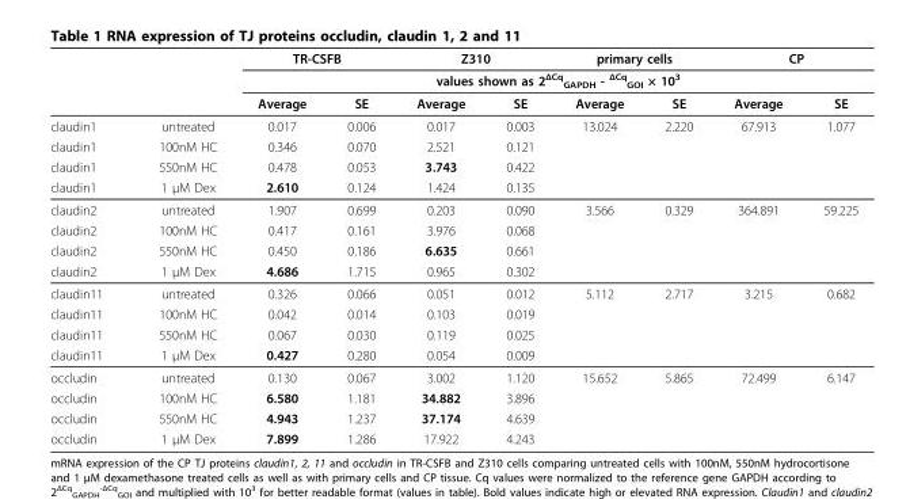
<table><thead><tr><td rowspan="3"></td><td rowspan="3"></td><td colspan="2">TR-CSFB</td><td colspan="2">Z310</td><td colspan="2">primary cells</td><td colspan="2">CP</td></tr><tr><td colspan="8">values shown as 2<sup>ΔCq</sup> <sub>GAPDH</sub> - <sup>ΔCq</sup> <sub>GOI</sub> × 10<sup>3</sup></td></tr><tr><td>Average</td><td>SE</td><td>Average</td><td>SE</td><td>Average</td><td>SE</td><td>Average</td><td>SE</td></tr></thead><tbody><tr><td>claudin1</td><td>untreated</td><td>0.017</td><td>0.006</td><td>0.017</td><td>0.003</td><td>13.024</td><td>2.220</td><td>67.913</td><td>1.077</td></tr><tr><td>claudin1</td><td>100nM HC</td><td>0.346</td><td>0.070</td><td>2.521</td><td>0.121</td><td></td><td></td><td></td><td></td></tr><tr><td>claudin1</td><td>550nM HC</td><td>0.478</td><td>0.053</td><td>3.743</td><td>0.422</td><td></td><td></td><td></td><td></td></tr><tr><td>claudin1</td><td>1 μM Dex</td><td>2.610</td><td>0.124</td><td>1.424</td><td>0.135</td><td></td><td></td><td></td><td></td></tr><tr><td>claudin2</td><td>untreated</td><td>1.907</td><td>0.699</td><td>0.203</td><td>0.090</td><td>3.566</td><td>0.329</td><td>364.891</td><td>59.225</td></tr><tr><td>claudin2</td><td>100nM HC</td><td>0.417</td><td>0.161</td><td>3.976</td><td>0.068</td><td></td><td></td><td></td><td></td></tr><tr><td>claudin2</td><td>550nM HC</td><td>0.450</td><td>0.186</td><td>6.635</td><td>0.661</td><td></td><td></td><td></td><td></td></tr><tr><td>claudin2</td><td>1 μM Dex</td><td>4.686</td><td>1.715</td><td>0.965</td><td>0.302</td><td></td><td></td><td></td><td></td></tr><tr><td>claudin11</td><td>untreated</td><td>0.326</td><td>0.066</td><td>0.051</td><td>0.012</td><td>5.112</td><td>2.717</td><td>3.215</td><td>0.682</td></tr><tr><td>claudin11</td><td>100nM HC</td><td>0.042</td><td>0.014</td><td>0.103</td><td>0.019</td><td></td><td></td><td></td><td></td></tr><tr><td>claudin11</td><td>550nM HC</td><td>0.067</td><td>0.030</td><td>0.119</td><td>0.025</td><td></td><td></td><td></td><td></td></tr><tr><td>claudin11</td><td>1 μM Dex</td><td>0.427</td><td>0.280</td><td>0.054</td><td>0.009</td><td></td><td></td><td></td><td></td></tr><tr><td>occludin</td><td>untreated</td><td>0.130</td><td>0.067</td><td>3.002</td><td>1.120</td><td>15.652</td><td>5.865</td><td>72.499</td><td>6.147</td></tr><tr><td>occludin</td><td>100nM HC</td><td>6.580</td><td>1.181</td><td>34.882</td><td>3.896</td><td></td><td></td><td></td><td></td></tr><tr><td>occludin</td><td>550nM HC</td><td>4.943</td><td>1.237</td><td>37.174</td><td>4.639</td><td></td><td></td><td></td><td></td></tr><tr><td>occludin</td><td>1 μM Dex</td><td>7.899</td><td>1.286</td><td>17.922</td><td>4.243</td><td></td><td></td><td></td><td></td></tr></tbody></table>